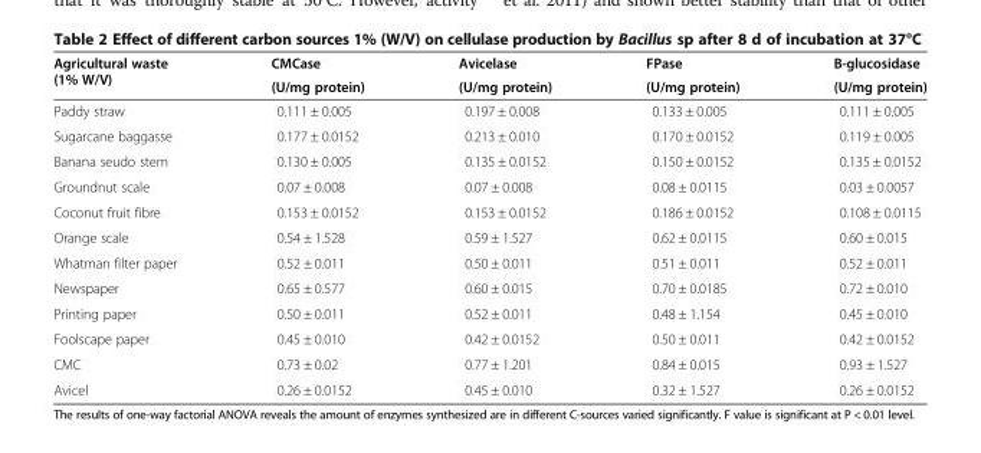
<table><thead><tr><td rowspan="2">Agricultural waste (1% W/V)</td><td rowspan="2">CMCase (U/mg protein)</td><td rowspan="2">Avicelase (U/mg protein)</td><td rowspan="2">FPase (U/mg protein)</td><td rowspan="2">Β-glucosidase (U/mg protein)</td></tr><tr></tr></thead><tbody><tr><td>Paddy straw</td><td>0.111 ± 0.005</td><td>0.197 ± 0.008</td><td>0.133 ± 0.005</td><td>0.111 ± 0.005</td></tr><tr><td>Sugarcane baggasse</td><td>0.177 ± 0.0152</td><td>0.213 ± 0.010</td><td>0.170 ± 0.0152</td><td>0.119 ± 0.005</td></tr><tr><td>Banana seudo stem</td><td>0.130 ± 0.005</td><td>0.135 ± 0.0152</td><td>0.150 ± 0.0152</td><td>0.135 ± 0.0152</td></tr><tr><td>Groundnut scale</td><td>0.07 ± 0.008</td><td>0.07 ± 0.008</td><td>0.08 ± 0.0115</td><td>0.03 ± 0.0057</td></tr><tr><td>Coconut fruit fibre</td><td>0.153 ± 0.0152</td><td>0.153 ± 0.0152</td><td>0.186 ± 0.0152</td><td>0.108 ± 0.0115</td></tr><tr><td>Orange scale</td><td>0.54 ± 1.528</td><td>0.59 ± 1.527</td><td>0.62 ± 0.0115</td><td>0.60 ± 0.015</td></tr><tr><td>Whatman filter paper</td><td>0.52 ± 0.011</td><td>0.50 ± 0.011</td><td>0.51 ± 0.011</td><td>0.52 ± 0.011</td></tr><tr><td>Newspaper</td><td>0.65 ± 0.577</td><td>0.60 ± 0.015</td><td>0.70 ± 0.0185</td><td>0.72 ± 0.010</td></tr><tr><td>Printing paper</td><td>0.50 ± 0.011</td><td>0.52 ± 0.011</td><td>0.48 ± 1.154</td><td>0.45 ± 0.010</td></tr><tr><td>Foolscape paper</td><td>0.45 ± 0.010</td><td>0.42 ± 0.0152</td><td>0.50 ± 0.011</td><td>0.42 ± 0.0152</td></tr><tr><td>CMC</td><td>0.73 ± 0.02</td><td>0.77 ± 1.201</td><td>0.84 ± 0.015</td><td>0.93 ± 1.527</td></tr><tr><td>Avicel</td><td>0.26 ± 0.0152</td><td>0.45 ± 0.010</td><td>0.32 ± 1.527</td><td>0.26 ± 0.0152</td></tr></tbody></table>